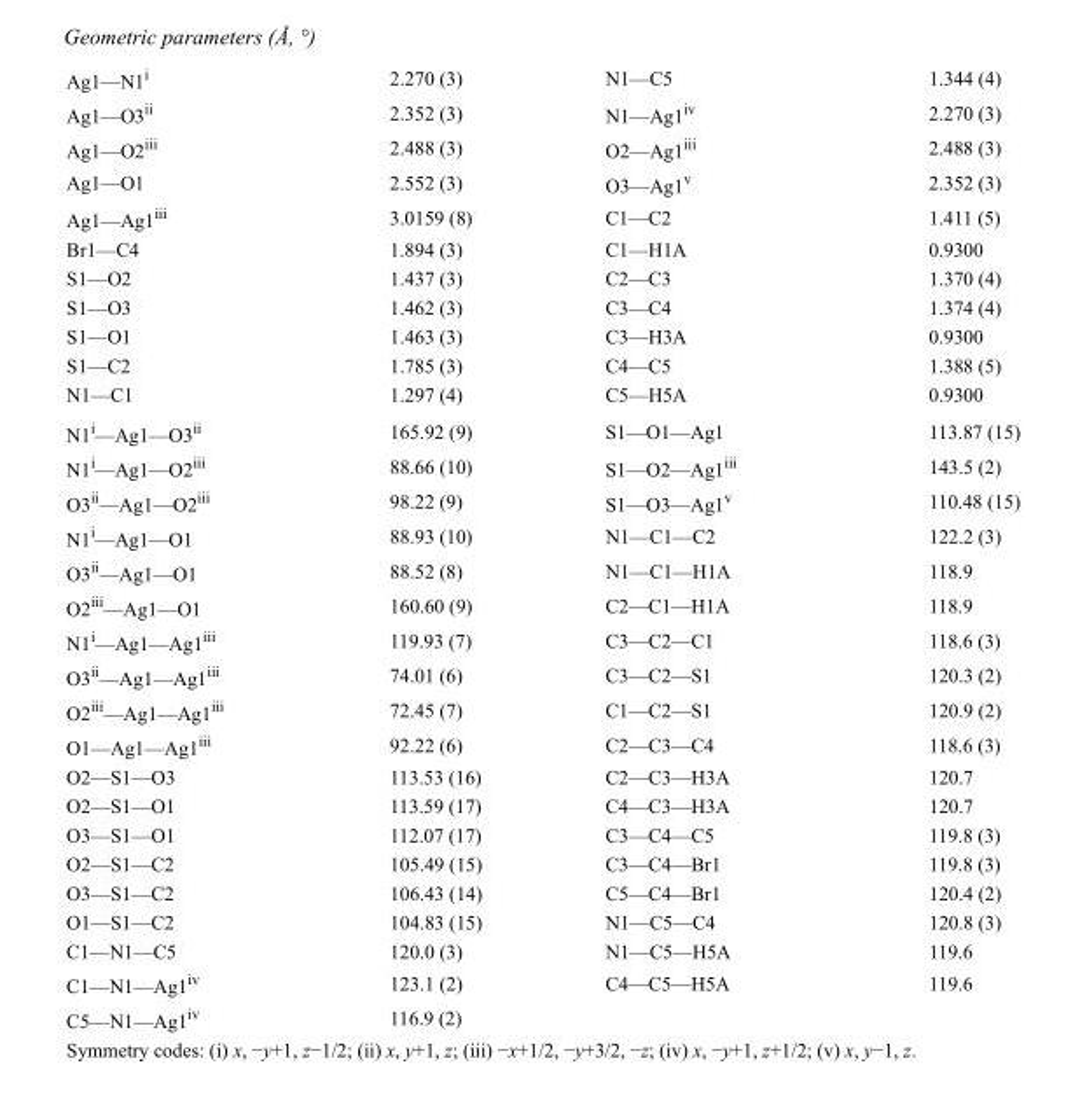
<table><tbody><tr><td>Ag1—N1<sup>i</sup></td><td>2.270 (3)</td><td>N1—C5</td><td>1.344 (4)</td></tr><tr><td>Ag1—O3<sup>ii</sup></td><td>2.352 (3)</td><td>N1—Ag1<sup>iv</sup></td><td>2.270 (3)</td></tr><tr><td>Ag1—O2<sup>iii</sup></td><td>2.488 (3)</td><td>O2—Ag1<sup>iii</sup></td><td>2.488 (3)</td></tr><tr><td>Ag1—O1</td><td>2.552 (3)</td><td>O3—Ag1<sup>v</sup></td><td>2.352 (3)</td></tr><tr><td>Ag1—Ag1<sup>iii</sup></td><td>3.0159 (8)</td><td>C1—C2</td><td>1.411 (5)</td></tr><tr><td>Br1—C4</td><td>1.894 (3)</td><td>C1—H1A</td><td>0.9300</td></tr><tr><td>S1—O2</td><td>1.437 (3)</td><td>C2—C3</td><td>1.370 (4)</td></tr><tr><td>S1—O3</td><td>1.462 (3)</td><td>C3—C4</td><td>1.374 (4)</td></tr><tr><td>S1—O1</td><td>1.463 (3)</td><td>C3—H3A</td><td>0.9300</td></tr><tr><td>S1—C2</td><td>1.785 (3)</td><td>C4—C5</td><td>1.388 (5)</td></tr><tr><td>N1—C1</td><td>1.297 (4)</td><td>C5—H5A</td><td>0.9300</td></tr><tr><td>N1<sup>i</sup>—Ag1—O3<sup>ii</sup></td><td>165.92 (9)</td><td>S1—O1—Ag1</td><td>113.87 (15)</td></tr><tr><td>N1<sup>i</sup>—Ag1—O2<sup>iii</sup></td><td>88.66 (10)</td><td>S1—O2—Ag1<sup>iii</sup></td><td>143.5 (2)</td></tr><tr><td>O3<sup>ii</sup>—Ag1—O2<sup>iii</sup></td><td>98.22 (9)</td><td>S1—O3—Ag1<sup>v</sup></td><td>110.48 (15)</td></tr><tr><td>N1<sup>i</sup>—Ag1—O1</td><td>88.93 (10)</td><td>N1—C1—C2</td><td>122.2 (3)</td></tr><tr><td>O3<sup>ii</sup>—Ag1—O1</td><td>88.52 (8)</td><td>N1—C1—H1A</td><td>118.9</td></tr><tr><td>O2<sup>iii</sup>—Ag1—O1</td><td>160.60 (9)</td><td>C2—C1—H1A</td><td>118.9</td></tr><tr><td>N1<sup>i</sup>—Ag1—Ag1<sup>iii</sup></td><td>119.93 (7)</td><td>C3—C2—C1</td><td>118.6 (3)</td></tr><tr><td>O3<sup>ii</sup>—Ag1—Ag1<sup>iii</sup></td><td>74.01 (6)</td><td>C3—C2—S1</td><td>120.3 (2)</td></tr><tr><td>O2<sup>iii</sup>—Ag1—Ag1<sup>iii</sup></td><td>72.45 (7)</td><td>C1—C2—S1</td><td>120.9 (2)</td></tr><tr><td>O1—Ag1—Ag1<sup>iii</sup></td><td>92.22 (6)</td><td>C2—C3—C4</td><td>118.6 (3)</td></tr><tr><td>O2—S1—O3</td><td>113.53 (16)</td><td>C2—C3—H3A</td><td>120.7</td></tr><tr><td>O2—S1—O1</td><td>113.59 (17)</td><td>C4—C3—H3A</td><td>120.7</td></tr><tr><td>O3—S1—O1</td><td>112.07 (17)</td><td>C3—C4—C5</td><td>119.8 (3)</td></tr><tr><td>O2—S1—C2</td><td>105.49 (15)</td><td>C3—C4—Br1</td><td>119.8 (3)</td></tr><tr><td>O3—S1—C2</td><td>106.43 (14)</td><td>C5—C4—Br1</td><td>120.4 (2)</td></tr><tr><td>O1—S1—C2</td><td>104.83 (15)</td><td>N1—C5—C4</td><td>120.8 (3)</td></tr><tr><td>C1—N1—C5</td><td>120.0 (3)</td><td>N1—C5—H5A</td><td>119.6</td></tr><tr><td>C1—N1—Ag1<sup>iv</sup></td><td>123.1 (2)</td><td>C4—C5—H5A</td><td>119.6</td></tr><tr><td>C5—N1—Ag1<sup>iv</sup></td><td>116.9 (2)</td><td></td><td></td></tr></tbody></table>